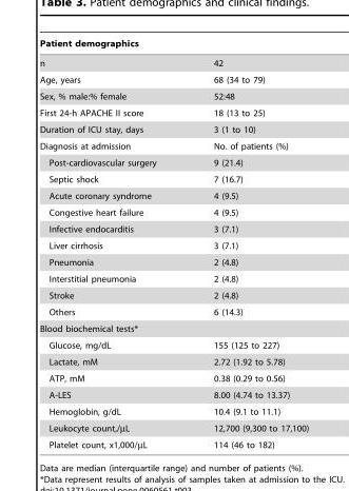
<table><thead><tr><td>Patient demographics</td><td></td></tr></thead><tbody><tr><td>n</td><td>42</td></tr><tr><td>Age, years</td><td>68 (34 to 79)</td></tr><tr><td>Sex, % male:% female</td><td>52:48</td></tr><tr><td>First 24-h APACHE II score</td><td>18 (13 to 25)</td></tr><tr><td>Duration of ICU stay, days</td><td>3 (1 to 10)</td></tr><tr><td>Diagnosis at admission</td><td>No. of patients (%)</td></tr><tr><td>Post-cardiovascular surgery</td><td>9 (21.4)</td></tr><tr><td>Septic shock</td><td>7 (16.7)</td></tr><tr><td>Acute coronary syndrome</td><td>4 (9.5)</td></tr><tr><td>Congestive heart failure</td><td>4 (9.5)</td></tr><tr><td>Infective endocarditis</td><td>3 (7.1)</td></tr><tr><td>Liver cirrhosis</td><td>3 (7.1)</td></tr><tr><td>Pneumonia</td><td>2 (4.8)</td></tr><tr><td>Interstitial pneumonia</td><td>2 (4.8)</td></tr><tr><td>Stroke</td><td>2 (4.8)</td></tr><tr><td>Others</td><td>6 (14.3)</td></tr><tr><td colspan="2">Blood biochemical tests*</td></tr><tr><td>Glucose, mg/dL</td><td>155 (125 to 227)</td></tr><tr><td>Lactate, mM</td><td>2.72 (1.92 to 5.78)</td></tr><tr><td>ATP, mM</td><td>0.38 (0.29 to 0.56)</td></tr><tr><td>A-LES</td><td>8.00 (4.74 to 13.37)</td></tr><tr><td>Hemoglobin, g/dL</td><td>10.4 (9.1 to 11.1)</td></tr><tr><td>Leukocyte count,/µL</td><td>12,700 (9,300 to 17,100)</td></tr><tr><td>Platelet count, x1,000/µL</td><td>114 (46 to 182)</td></tr></tbody></table>